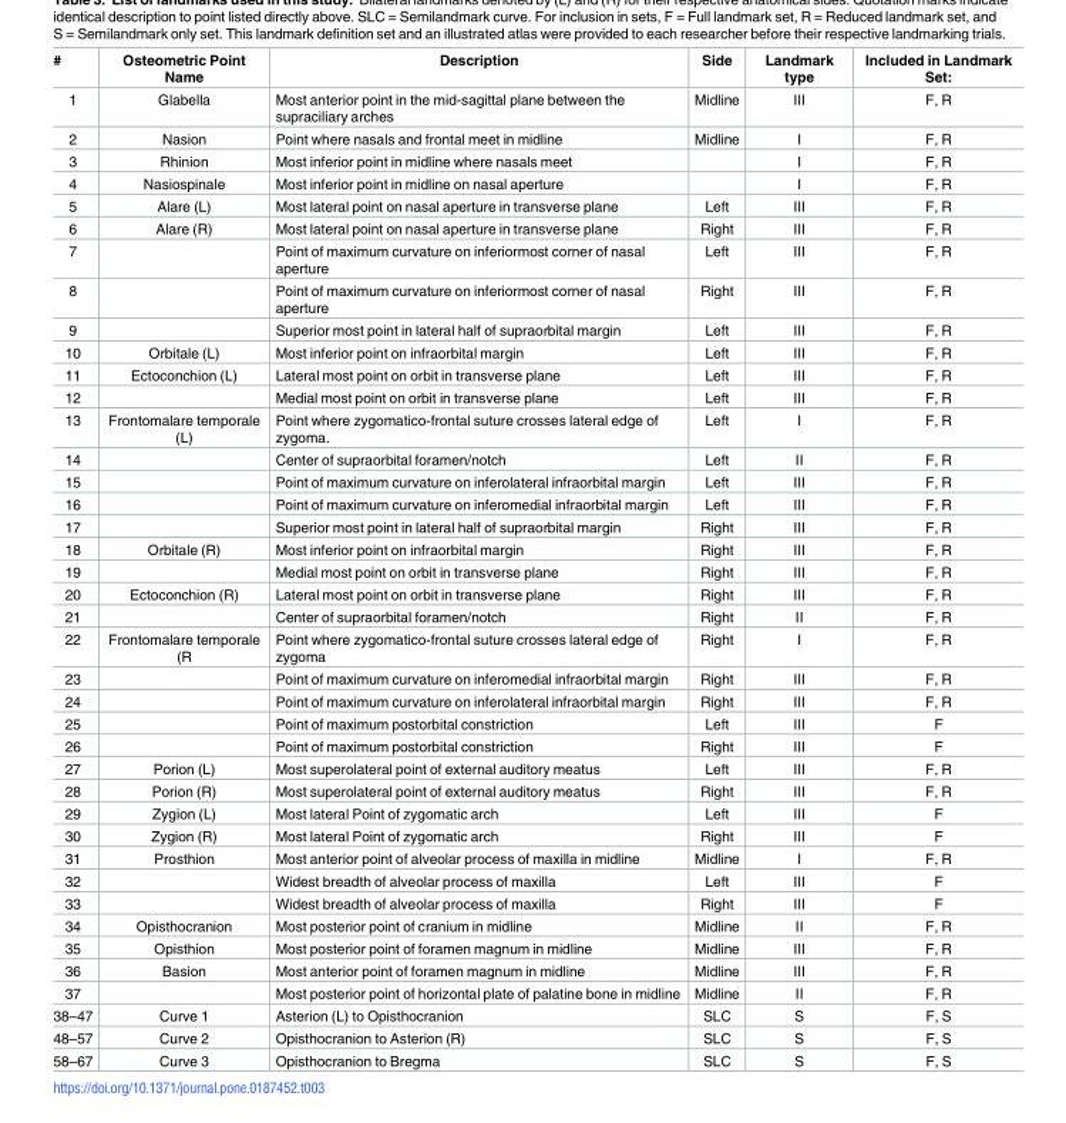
<table><thead><tr><td>#</td><td>Osteometric Point Name</td><td>Description</td><td>Side</td><td>Landmark type</td><td>Included in Landmark Set:</td></tr></thead><tbody><tr><td>1</td><td>Glabella</td><td>Most anterior point in the mid-sagittal plane between the supraciliary arches</td><td>Midline</td><td>III</td><td>F, R</td></tr><tr><td>2</td><td>Nasion</td><td>Point where nasals and frontal meet in midline</td><td>Midline</td><td>I</td><td>F, R</td></tr><tr><td>3</td><td>Rhinion</td><td>Most inferior point in midline where nasals meet</td><td></td><td>I</td><td>F, R</td></tr><tr><td>4</td><td>Nasiospinale</td><td>Most inferior point in midline on nasal aperture</td><td></td><td>I</td><td>F, R</td></tr><tr><td>5</td><td>Alare (L)</td><td>Most lateral point on nasal aperture in transverse plane</td><td>Left</td><td>III</td><td>F, R</td></tr><tr><td>6</td><td>Alare (R)</td><td>Most lateral point on nasal aperture in transverse plane</td><td>Right</td><td>III</td><td>F, R</td></tr><tr><td>7</td><td></td><td>Point of maximum curvature on inferiormost corner of nasal aperture</td><td>Left</td><td>III</td><td>F, R</td></tr><tr><td>8</td><td></td><td>Point of maximum curvature on inferiormost corner of nasal aperture</td><td>Right</td><td>III</td><td>F, R</td></tr><tr><td>9</td><td></td><td>Superior most point in lateral half of supraorbital margin</td><td>Left</td><td>III</td><td>F, R</td></tr><tr><td>10</td><td>Orbitale (L)</td><td>Most inferior point on infraorbital margin</td><td>Left</td><td>III</td><td>F, R</td></tr><tr><td>11</td><td>Ectoconchion (L)</td><td>Lateral most point on orbit in transverse plane</td><td>Left</td><td>III</td><td>F, R</td></tr><tr><td>12</td><td></td><td>Medial most point on orbit in transverse plane</td><td>Left</td><td>III</td><td>F, R</td></tr><tr><td>13</td><td>Frontomalare temporale (L)</td><td>Point where zygomatico-frontal suture crosses lateral edge of zygoma.</td><td>Left</td><td>I</td><td>F, R</td></tr><tr><td>14</td><td></td><td>Center of supraorbital foramen/notch</td><td>Left</td><td>II</td><td>F, R</td></tr><tr><td>15</td><td></td><td>Point of maximum curvature on inferolateral infraorbital margin</td><td>Left</td><td>III</td><td>F, R</td></tr><tr><td>16</td><td></td><td>Point of maximum curvature on inferomedial infraorbital margin</td><td>Left</td><td>III</td><td>F, R</td></tr><tr><td>17</td><td></td><td>Superior most point in lateral half of supraorbital margin</td><td>Right</td><td>III</td><td>F, R</td></tr><tr><td>18</td><td>Orbitale (R)</td><td>Most inferior point on infraorbital margin</td><td>Right</td><td>III</td><td>F, R</td></tr><tr><td>19</td><td></td><td>Medial most point on orbit in transverse plane</td><td>Right</td><td>III</td><td>F, R</td></tr><tr><td>20</td><td>Ectoconchion (R)</td><td>Lateral most point on orbit in transverse plane</td><td>Right</td><td>III</td><td>F, R</td></tr><tr><td>21</td><td></td><td>Center of supraorbital foramen/notch</td><td>Right</td><td>II</td><td>F, R</td></tr><tr><td>22</td><td>Frontomalare temporale (R</td><td>Point where zygomatico-frontal suture crosses lateral edge of zygoma</td><td>Right</td><td>I</td><td>F, R</td></tr><tr><td>23</td><td></td><td>Point of maximum curvature on inferomedial infraorbital margin</td><td>Right</td><td>III</td><td>F, R</td></tr><tr><td>24</td><td></td><td>Point of maximum curvature on inferolateral infraorbital margin</td><td>Right</td><td>III</td><td>F, R</td></tr><tr><td>25</td><td></td><td>Point of maximum postorbital constriction</td><td>Left</td><td>III</td><td>F</td></tr><tr><td>26</td><td></td><td>Point of maximum postorbital constriction</td><td>Right</td><td>III</td><td>F</td></tr><tr><td>27</td><td>Porion (L)</td><td>Most superolateral point of external auditory meatus</td><td>Left</td><td>III</td><td>F, R</td></tr><tr><td>28</td><td>Porion (R)</td><td>Most superolateral point of external auditory meatus</td><td>Right</td><td>III</td><td>F, R</td></tr><tr><td>29</td><td>Zygion (L)</td><td>Most lateral Point of zygomatic arch</td><td>Left</td><td>III</td><td>F</td></tr><tr><td>30</td><td>Zygion (R)</td><td>Most lateral Point of zygomatic arch</td><td>Right</td><td>III</td><td>F</td></tr><tr><td>31</td><td>Prosthion</td><td>Most anterior point of alveolar process of maxilla in midline</td><td>Midline</td><td>I</td><td>F, R</td></tr><tr><td>32</td><td></td><td>Widest breadth of alveolar process of maxilla</td><td>Left</td><td>III</td><td>F</td></tr><tr><td>33</td><td></td><td>Widest breadth of alveolar process of maxilla</td><td>Right</td><td>III</td><td>F</td></tr><tr><td>34</td><td>Opisthocranion</td><td>Most posterior point of cranium in midline</td><td>Midline</td><td>II</td><td>F, R</td></tr><tr><td>35</td><td>Opisthion</td><td>Most posterior point of foramen magnum in midline</td><td>Midline</td><td>III</td><td>F, R</td></tr><tr><td>36</td><td>Basion</td><td>Most anterior point of foramen magnum in midline</td><td>Midline</td><td>III</td><td>F, R</td></tr><tr><td>37</td><td></td><td>Most posterior point of horizontal plate of palatine bone in midline</td><td>Midline</td><td>II</td><td>F, R</td></tr><tr><td>38–47</td><td>Curve 1</td><td>Asterion (L) to Opisthocranion</td><td>SLC</td><td>S</td><td>F, S</td></tr><tr><td>48–57</td><td>Curve 2</td><td>Opisthocranion to Asterion (R)</td><td>SLC</td><td>S</td><td>F, S</td></tr><tr><td>58–67</td><td>Curve 3</td><td>Opisthocranion to Bregma</td><td>SLC</td><td>S</td><td>F, S</td></tr></tbody></table>